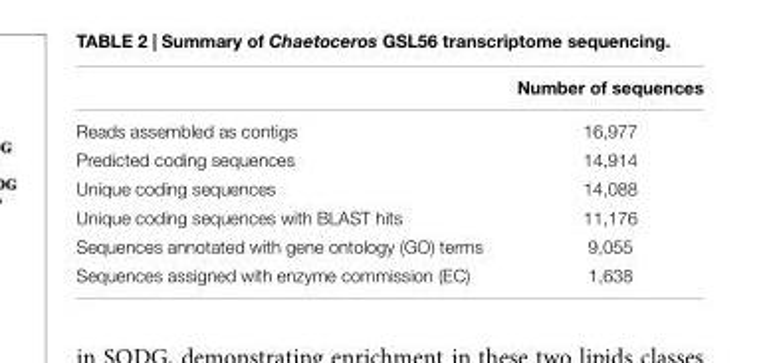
<table><thead><tr><td></td><td>Number of sequences</td></tr></thead><tbody><tr><td>Reads assembled as contigs</td><td>16,977</td></tr><tr><td>Predicted coding sequences</td><td>14,914</td></tr><tr><td>Unique coding sequences</td><td>14,088</td></tr><tr><td>Unique coding sequences with BLAST hits</td><td>11,176</td></tr><tr><td>Sequences annotated with gene ontology (GO) terms</td><td>9,055</td></tr><tr><td>Sequences assigned with enzyme commission (EC)</td><td>1,638</td></tr></tbody></table>